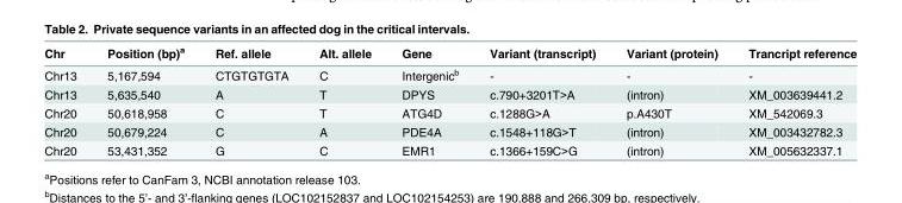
<table><thead><tr><td>Chr</td><td>Position (bp)<sup>a</sup></td><td>Ref. allele</td><td>Alt. allele</td><td>Gene</td><td>Variant (transcript)</td><td>Variant (protein)</td><td>Trancript reference</td></tr></thead><tbody><tr><td>Chr13</td><td>5,167,594</td><td>CTGTGTGTA</td><td>C</td><td>Intergenic<sup>b</sup></td><td>-</td><td>-</td><td>-</td></tr><tr><td>Chr13</td><td>5,635,540</td><td>A</td><td>T</td><td>DPYS</td><td>c.790+3201T&gt;A</td><td>(intron)</td><td>XM_003639441.2</td></tr><tr><td>Chr20</td><td>50,618,958</td><td>C</td><td>T</td><td>ATG4D</td><td>c.1288G&gt;A</td><td>p.A430T</td><td>XM_542069.3</td></tr><tr><td>Chr20</td><td>50,679,224</td><td>C</td><td>A</td><td>PDE4A</td><td>c.1548+118G&gt;T</td><td>(intron)</td><td>XM_003432782.3</td></tr><tr><td>Chr20</td><td>53,431,352</td><td>G</td><td>C</td><td>EMR1</td><td>c.1366+159C&gt;G</td><td>(intron)</td><td>XM_005632337.1</td></tr></tbody></table>